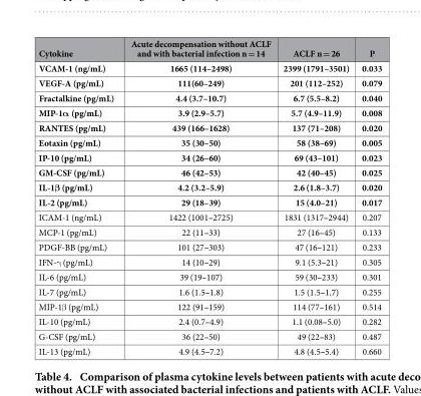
<table><thead><tr><td>Cytokine</td><td>Acute decompensation without ACLF and with bacterial infection n = 14</td><td>ACLF n = 26</td><td>P</td></tr></thead><tbody><tr><td>VCAM-1 (ng/mL)</td><td>1665 (114–2498)</td><td>2399 (1791–3501)</td><td>0.033</td></tr><tr><td>VEGF-A (pg/mL)</td><td>111(60–249)</td><td>201 (112–252)</td><td>0.079</td></tr><tr><td>Fractalkine (pg/mL)</td><td>4.4 (3.7–10.7)</td><td>6.7 (5.5–8.2)</td><td>0.040</td></tr><tr><td>MIP-1α (pg/mL)</td><td>3.9 (2.9–5.7)</td><td>5.7 (4.9–11.9)</td><td>0.008</td></tr><tr><td>RANTES (pg/mL)</td><td>439 (166–1628)</td><td>137 (71–208)</td><td>0.020</td></tr><tr><td>Eotaxin (pg/mL)</td><td>35 (30–50)</td><td>58 (38–69)</td><td>0.005</td></tr><tr><td>IP-10 (pg/mL)</td><td>34 (26–60)</td><td>69 (43–101)</td><td>0.023</td></tr><tr><td>GM-CSF (pg/mL)</td><td>46 (42–53)</td><td>42 (40–45)</td><td>0.025</td></tr><tr><td>IL-1β (pg/mL)</td><td>4.2 (3.2–5.9)</td><td>2.6 (1.8–3.7)</td><td>0.020</td></tr><tr><td>IL-2 (pg/mL)</td><td>29 (18–39)</td><td>15 (4.0–21)</td><td>0.017</td></tr><tr><td>ICAM-1 (ng/mL)</td><td>1422 (1001–2725)</td><td>1831 (1317–2944)</td><td>0.207</td></tr><tr><td>MCP-1 (pg/mL)</td><td>22 (11–33)</td><td>27 (16–45)</td><td>0.133</td></tr><tr><td>PDGF-BB (pg/mL)</td><td>101 (27–303)</td><td>47 (16–121)</td><td>0.233</td></tr><tr><td>IFN-γ (pg/mL)</td><td>14 (10–29)</td><td>9.1 (5.3–21)</td><td>0.305</td></tr><tr><td>IL-6 (pg/mL)</td><td>39 (19–107)</td><td>59 (30–233)</td><td>0.301</td></tr><tr><td>IL-7 (pg/mL)</td><td>1.6 (1.5–1.8)</td><td>1.5 (1.5–1.7)</td><td>0.255</td></tr><tr><td>MIP-1β (pg/mL)</td><td>122 (91–159)</td><td>114 (77–161)</td><td>0.514</td></tr><tr><td>IL-10 (pg/mL)</td><td>2.4 (0.7–4.9)</td><td>1.1 (0.08–5.0)</td><td>0.282</td></tr><tr><td>G-CSF (pg/mL)</td><td>36 (22–50)</td><td>49 (22–83)</td><td>0.487</td></tr><tr><td>IL-13 (pg/mL)</td><td>4.9 (4.5–7.2)</td><td>4.8 (4.5–5.4)</td><td>0.660</td></tr></tbody></table>